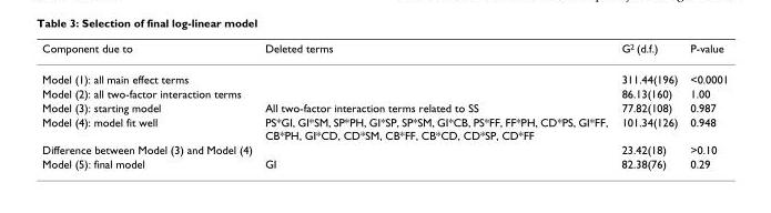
<table><thead><tr><td>Component due to</td><td>Deleted terms</td><td>G<sup>2</sup> (d.f.)</td><td>P-value</td></tr></thead><tbody><tr><td>Model (1): all main effect terms</td><td></td><td>311.44(196)</td><td>&lt;0.0001</td></tr><tr><td>Model (2): all two-factor interaction terms</td><td></td><td>86.13(160)</td><td>1.00</td></tr><tr><td>Model (3): starting model</td><td>All two-factor interaction terms related to SS</td><td>77.82(108)</td><td>0.987</td></tr><tr><td>Model (4): model fit well</td><td>PS*GI, GI*SM, SP*PH, GI*SP, SP*SM, GI*CB, PS*FF, FF*PH, CD*PS, GI*FF, CB*PH, GI*CD, CD*SM, CB*FF, CB*CD, CD*SP, CD*FF</td><td>101.34(126)</td><td>0.948</td></tr><tr><td>Difference between Model (3) and Model (4)</td><td></td><td>23.42(18)</td><td>&gt;0.10</td></tr><tr><td>Model (5): final model</td><td>GI</td><td>82.38(76)</td><td>0.29</td></tr></tbody></table>